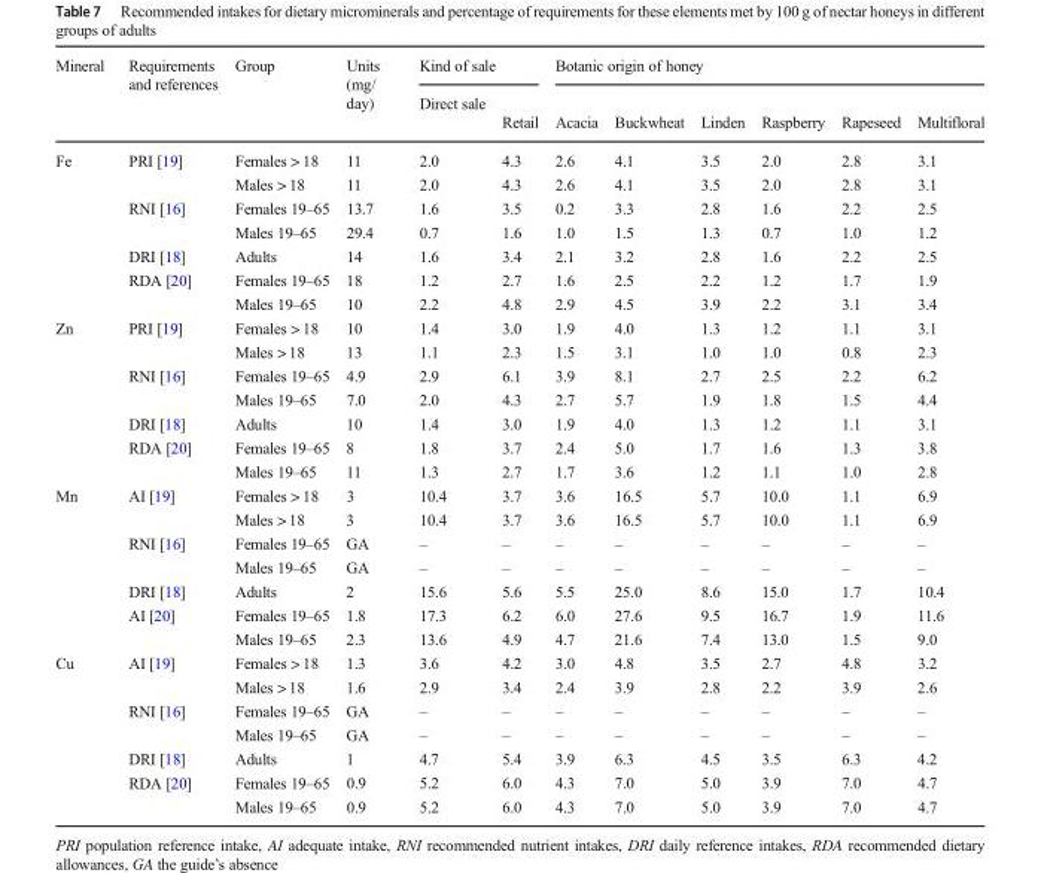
<table><thead><tr><td rowspan="2">Mineral</td><td rowspan="2">Requirements and references</td><td rowspan="2">Group</td><td rowspan="2">Units (mg/ day)</td><td colspan="2">Kind of sale</td><td colspan="6">Botanic origin of honey</td></tr><tr><td>Direct sale</td><td>Retail</td><td>Acacia</td><td>Buckwheat</td><td>Linden</td><td>Raspberry</td><td>Rapeseed</td><td>Multifloral</td></tr></thead><tbody><tr><td rowspan="7">Fe</td><td rowspan="2">PRI [19]</td><td>Females &gt; 18</td><td>11</td><td>2.0</td><td>4.3</td><td>2.6</td><td>4.1</td><td>3.5</td><td>2.0</td><td>2.8</td><td>3.1</td></tr><tr><td>Males &gt; 18</td><td>11</td><td>2.0</td><td>4.3</td><td>2.6</td><td>4.1</td><td>3.5</td><td>2.0</td><td>2.8</td><td>3.1</td></tr><tr><td rowspan="2">RNI [16]</td><td>Females 19–65</td><td>13.7</td><td>1.6</td><td>3.5</td><td>0.2</td><td>3.3</td><td>2.8</td><td>1.6</td><td>2.2</td><td>2.5</td></tr><tr><td>Males 19–65</td><td>29.4</td><td>0.7</td><td>1.6</td><td>1.0</td><td>1.5</td><td>1.3</td><td>0.7</td><td>1.0</td><td>1.2</td></tr><tr><td>DRI [18]</td><td>Adults</td><td>14</td><td>1.6</td><td>3.4</td><td>2.1</td><td>3.2</td><td>2.8</td><td>1.6</td><td>2.2</td><td>2.5</td></tr><tr><td rowspan="2">RDA [20]</td><td>Females 19–65</td><td>18</td><td>1.2</td><td>2.7</td><td>1.6</td><td>2.5</td><td>2.2</td><td>1.2</td><td>1.7</td><td>1.9</td></tr><tr><td>Males 19–65</td><td>10</td><td>2.2</td><td>4.8</td><td>2.9</td><td>4.5</td><td>3.9</td><td>2.2</td><td>3.1</td><td>3.4</td></tr><tr><td rowspan="7">Zn</td><td rowspan="2">PRI [19]</td><td>Females &gt; 18</td><td>10</td><td>1.4</td><td>3.0</td><td>1.9</td><td>4.0</td><td>1.3</td><td>1.2</td><td>1.1</td><td>3.1</td></tr><tr><td>Males &gt; 18</td><td>13</td><td>1.1</td><td>2.3</td><td>1.5</td><td>3.1</td><td>1.0</td><td>1.0</td><td>0.8</td><td>2.3</td></tr><tr><td rowspan="2">RNI [16]</td><td>Females 19–65</td><td>4.9</td><td>2.9</td><td>6.1</td><td>3.9</td><td>8.1</td><td>2.7</td><td>2.5</td><td>2.2</td><td>6.2</td></tr><tr><td>Males 19–65</td><td>7.0</td><td>2.0</td><td>4.3</td><td>2.7</td><td>5.7</td><td>1.9</td><td>1.8</td><td>1.5</td><td>4.4</td></tr><tr><td>DRI [18]</td><td>Adults</td><td>10</td><td>1.4</td><td>3.0</td><td>1.9</td><td>4.0</td><td>1.3</td><td>1.2</td><td>1.1</td><td>3.1</td></tr><tr><td rowspan="2">RDA [20]</td><td>Females 19–65</td><td>8</td><td>1.8</td><td>3.7</td><td>2.4</td><td>5.0</td><td>1.7</td><td>1.6</td><td>1.3</td><td>3.8</td></tr><tr><td>Males 19–65</td><td>11</td><td>1.3</td><td>2.7</td><td>1.7</td><td>3.6</td><td>1.2</td><td>1.1</td><td>1.0</td><td>2.8</td></tr><tr><td rowspan="7">Mn</td><td rowspan="2">AI [19]</td><td>Females &gt; 18</td><td>3</td><td>10.4</td><td>3.7</td><td>3.6</td><td>16.5</td><td>5.7</td><td>10.0</td><td>1.1</td><td>6.9</td></tr><tr><td>Males &gt; 18</td><td>3</td><td>10.4</td><td>3.7</td><td>3.6</td><td>16.5</td><td>5.7</td><td>10.0</td><td>1.1</td><td>6.9</td></tr><tr><td rowspan="2">RNI [16]</td><td>Females 19–65</td><td>GA</td><td>–</td><td>–</td><td>–</td><td>–</td><td>–</td><td>–</td><td>–</td><td>–</td></tr><tr><td>Males 19–65</td><td>GA</td><td>–</td><td>–</td><td>–</td><td>–</td><td>–</td><td>–</td><td>–</td><td>–</td></tr><tr><td>DRI [18]</td><td>Adults</td><td>2</td><td>15.6</td><td>5.6</td><td>5.5</td><td>25.0</td><td>8.6</td><td>15.0</td><td>1.7</td><td>10.4</td></tr><tr><td rowspan="2">AI [20]</td><td>Females 19–65</td><td>1.8</td><td>17.3</td><td>6.2</td><td>6.0</td><td>27.6</td><td>9.5</td><td>16.7</td><td>1.9</td><td>11.6</td></tr><tr><td>Males 19–65</td><td>2.3</td><td>13.6</td><td>4.9</td><td>4.7</td><td>21.6</td><td>7.4</td><td>13.0</td><td>1.5</td><td>9.0</td></tr><tr><td rowspan="7">Cu</td><td rowspan="2">AI [19]</td><td>Females &gt; 18</td><td>1.3</td><td>3.6</td><td>4.2</td><td>3.0</td><td>4.8</td><td>3.5</td><td>2.7</td><td>4.8</td><td>3.2</td></tr><tr><td>Males &gt; 18</td><td>1.6</td><td>2.9</td><td>3.4</td><td>2.4</td><td>3.9</td><td>2.8</td><td>2.2</td><td>3.9</td><td>2.6</td></tr><tr><td rowspan="2">RNI [16]</td><td>Females 19–65</td><td>GA</td><td>–</td><td>–</td><td>–</td><td>–</td><td>–</td><td>–</td><td>–</td><td>–</td></tr><tr><td>Males 19–65</td><td>GA</td><td>–</td><td>–</td><td>–</td><td>–</td><td>–</td><td>–</td><td>–</td><td>–</td></tr><tr><td>DRI [18]</td><td>Adults</td><td>1</td><td>4.7</td><td>5.4</td><td>3.9</td><td>6.3</td><td>4.5</td><td>3.5</td><td>6.3</td><td>4.2</td></tr><tr><td rowspan="2">RDA [20]</td><td>Females 19–65</td><td>0.9</td><td>5.2</td><td>6.0</td><td>4.3</td><td>7.0</td><td>5.0</td><td>3.9</td><td>7.0</td><td>4.7</td></tr><tr><td>Males 19–65</td><td>0.9</td><td>5.2</td><td>6.0</td><td>4.3</td><td>7.0</td><td>5.0</td><td>3.9</td><td>7.0</td><td>4.7</td></tr></tbody></table>